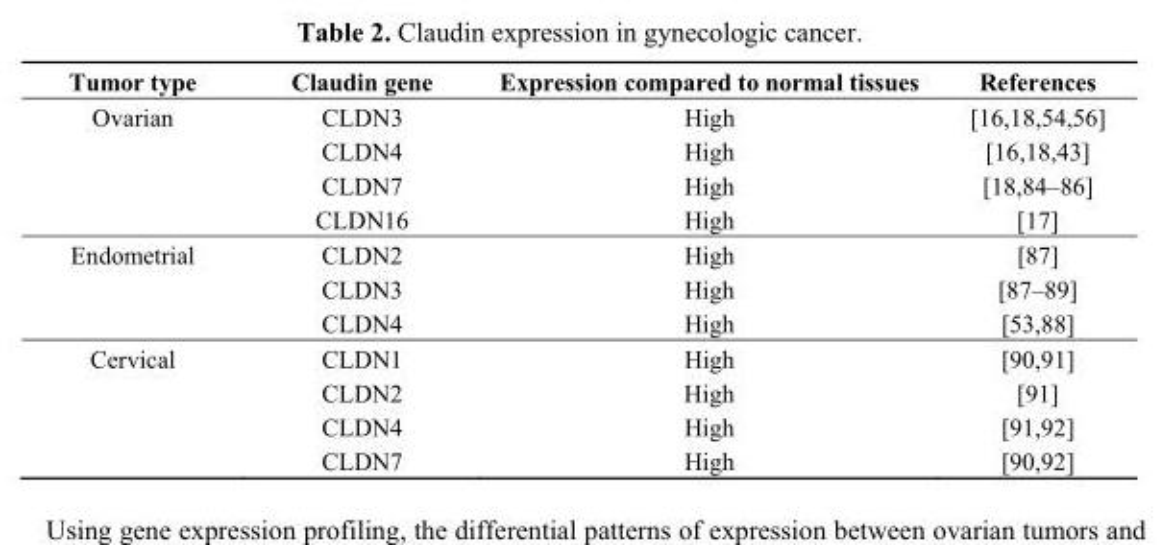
<table><thead><tr><td>Tumor type</td><td>Claudin gene</td><td>Expression compared to normal tissues</td><td>References</td></tr></thead><tbody><tr><td rowspan="4">Ovarian</td><td>CLDN3</td><td>High</td><td>[16,18,54,56]</td></tr><tr><td>CLDN4</td><td>High</td><td>[16,18,43]</td></tr><tr><td>CLDN7</td><td>High</td><td>[18,84–86]</td></tr><tr><td>CLDN16</td><td>High</td><td>[17]</td></tr><tr><td rowspan="3">Endometrial</td><td>CLDN2</td><td>High</td><td>[87]</td></tr><tr><td>CLDN3</td><td>High</td><td>[87–89]</td></tr><tr><td>CLDN4</td><td>High</td><td>[53,88]</td></tr><tr><td rowspan="4">Cervical</td><td>CLDN1</td><td>High</td><td>[90,91]</td></tr><tr><td>CLDN2</td><td>High</td><td>[91]</td></tr><tr><td>CLDN4</td><td>High</td><td>[91,92]</td></tr><tr><td>CLDN7</td><td>High</td><td>[90,92]</td></tr></tbody></table>